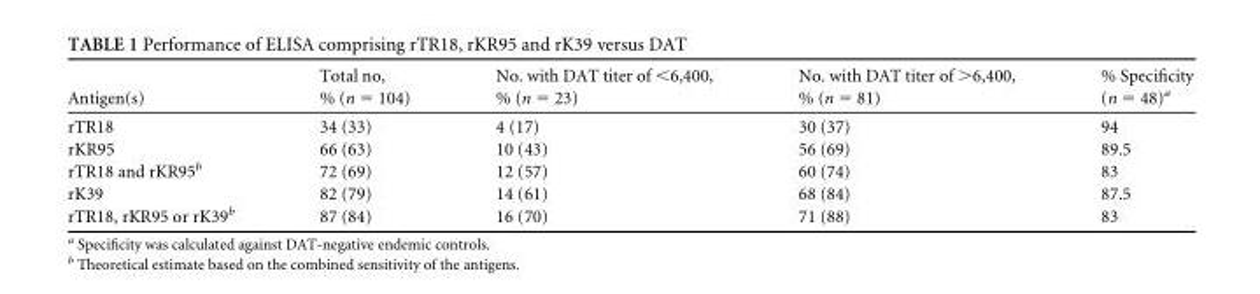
<table><thead><tr><td>Antigen(s)</td><td>Total no, % (n = 104)</td><td>No. with DAT titer of &lt;6,400, % (n = 23)</td><td>No. with DAT titer of &gt;6,400, % (n = 81)</td><td>% Specificity (n = 48)<sup>a</sup></td></tr></thead><tbody><tr><td>rTR18</td><td>34 (33)</td><td>4 (17)</td><td>30 (37)</td><td>94</td></tr><tr><td>rKR95</td><td>66 (63)</td><td>10 (43)</td><td>56 (69)</td><td>89.5</td></tr><tr><td>rTR18 and rKR95<sup>b</sup></td><td>72 (69)</td><td>12 (57)</td><td>60 (74)</td><td>83</td></tr><tr><td>rK39</td><td>82 (79)</td><td>14 (61)</td><td>68 (84)</td><td>87.5</td></tr><tr><td>rTR18, rKR95 or rK39<sup>b</sup></td><td>87 (84)</td><td>16 (70)</td><td>71 (88)</td><td>83</td></tr></tbody></table>